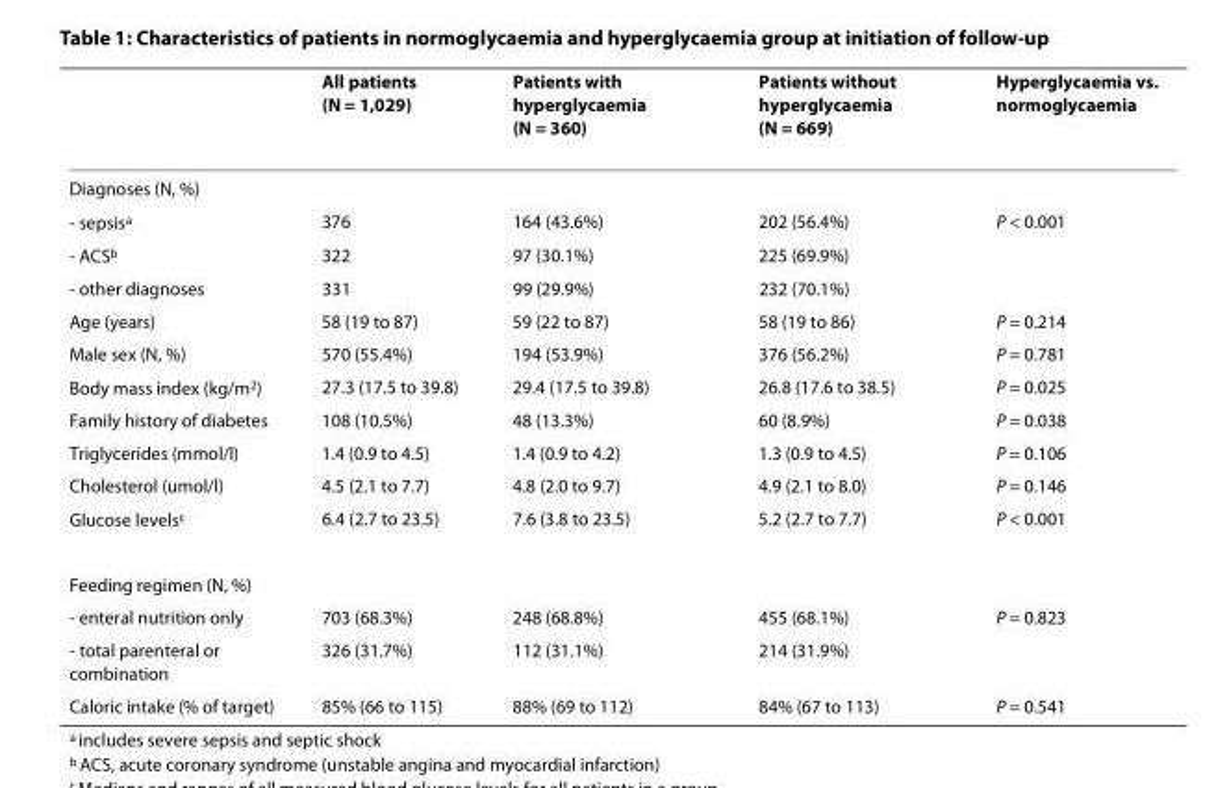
<table><thead><tr><td></td><td>All patients (N = 1,029)</td><td>Patients with hyperglycaemia (N = 360)</td><td>Patients without hyperglycaemia (N = 669)</td><td>Hyperglycaemia vs. normoglycaemia</td></tr></thead><tbody><tr><td colspan="5">Diagnoses (N, %)</td></tr><tr><td>- sepsis<sup>a</sup></td><td>376</td><td>164 (43.6%)</td><td>202 (56.4%)</td><td>P &lt; 0.001</td></tr><tr><td>- ACS<sup>b</sup></td><td>322</td><td>97 (30.1%)</td><td>225 (69.9%)</td><td></td></tr><tr><td>- other diagnoses</td><td>331</td><td>99 (29.9%)</td><td>232 (70.1%)</td><td></td></tr><tr><td>Age (years)</td><td>58 (19 to 87)</td><td>59 (22 to 87)</td><td>58 (19 to 86)</td><td>P = 0.214</td></tr><tr><td>Male sex (N, %)</td><td>570 (55.4%)</td><td>194 (53.9%)</td><td>376 (56.2%)</td><td>P = 0.781</td></tr><tr><td>Body mass index (kg/m<sup>2</sup>)</td><td>27.3 (17.5 to 39.8)</td><td>29.4 (17.5 to 39.8)</td><td>26.8 (17.6 to 38.5)</td><td>P = 0.025</td></tr><tr><td>Family history of diabetes</td><td>108 (10.5%)</td><td>48 (13.3%)</td><td>60 (8.9%)</td><td>P = 0.038</td></tr><tr><td>Triglycerides (mmol/l)</td><td>1.4 (0.9 to 4.5)</td><td>1.4 (0.9 to 4.2)</td><td>1.3 (0.9 to 4.5)</td><td>P = 0.106</td></tr><tr><td>Cholesterol (umol/l)</td><td>4.5 (2.1 to 7.7)</td><td>4.8 (2.0 to 9.7)</td><td>4.9 (2.1 to 8.0)</td><td>P = 0.146</td></tr><tr><td>Glucose levels<sup>c</sup></td><td>6.4 (2.7 to 23.5)</td><td>7.6 (3.8 to 23.5)</td><td>5.2 (2.7 to 7.7)</td><td>P &lt; 0.001</td></tr><tr><td colspan="5">Feeding regimen (N, %)</td></tr><tr><td>- enteral nutrition only</td><td>703 (68.3%)</td><td>248 (68.8%)</td><td>455 (68.1%)</td><td>P = 0.823</td></tr><tr><td>- total parenteral or combination</td><td>326 (31.7%)</td><td>112 (31.1%)</td><td>214 (31.9%)</td><td></td></tr><tr><td>Caloric intake (% of target)</td><td>85% (66 to 115)</td><td>88% (69 to 112)</td><td>84% (67 to 113)</td><td>P = 0.541</td></tr></tbody></table>